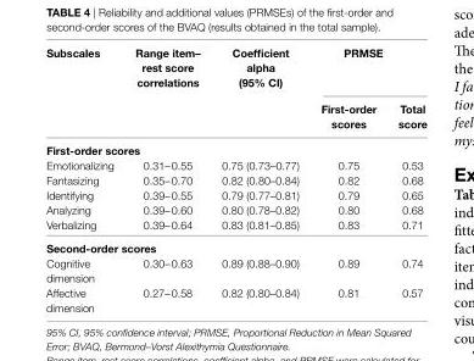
<table><thead><tr><td rowspan="2">subscales</td><td rowspan="2">range item– rest score correlations</td><td rowspan="2">coefficient alpha (95% ci)</td><td colspan="2">PrMse</td></tr><tr><td>First-order scores</td><td>Total score</td></tr></thead><tbody><tr><td colspan="5">First-order scores</td></tr><tr><td>Emotionalizing</td><td>0.31–0.55</td><td>0.75 (0.73–0.77)</td><td>0.75</td><td>0.53</td></tr><tr><td>Fantasizing</td><td>0.35–0.70</td><td>0.82 (0.80–0.84)</td><td>0.82</td><td>0.68</td></tr><tr><td>Identifying</td><td>0.39–0.55</td><td>0.79 (0.77–0.81)</td><td>0.79</td><td>0.65</td></tr><tr><td>Analyzing</td><td>0.39–0.60</td><td>0.80 (0.78–0.82)</td><td>0.80</td><td>0.68</td></tr><tr><td>Verbalizing</td><td>0.39–0.64</td><td>0.83 (0.81–0.85)</td><td>0.83</td><td>0.71</td></tr><tr><td colspan="5">second-order scores</td></tr><tr><td>Cognitive dimension</td><td>0.30–0.63</td><td>0.89 (0.88–0.90)</td><td>0.89</td><td>0.74</td></tr><tr><td>Affective dimension</td><td>0.27–0.58</td><td>0.82 (0.80–0.84)</td><td>0.81</td><td>0.57</td></tr></tbody></table>